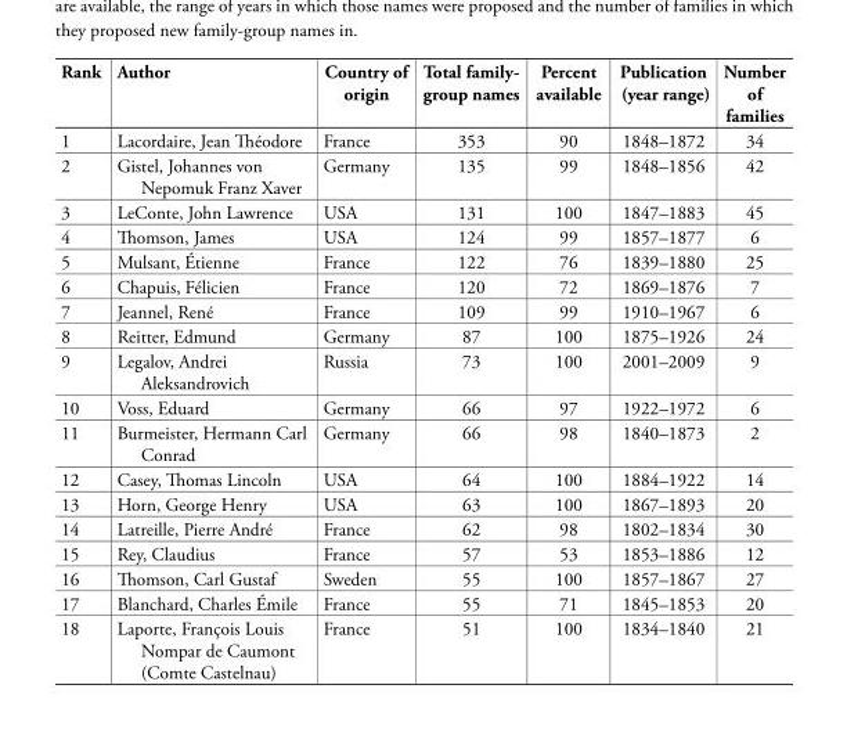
<table><thead><tr><td>Rank</td><td>Author</td><td>Country of origin</td><td>Total family- group names</td><td>Percent available</td><td>Publication (year range)</td><td>Number of families</td></tr></thead><tbody><tr><td>1</td><td>Lacordaire, Jean Théodore</td><td>France</td><td>353</td><td>90</td><td>1848–1872</td><td>34</td></tr><tr><td>2</td><td>Gistel, Johannes von Nepomuk Franz Xaver</td><td>Germany</td><td>135</td><td>99</td><td>1848–1856</td><td>42</td></tr><tr><td>3</td><td>LeConte, John Lawrence</td><td>USA</td><td>131</td><td>100</td><td>1847–1883</td><td>45</td></tr><tr><td>4</td><td>Thomson, James</td><td>USA</td><td>124</td><td>99</td><td>1857–1877</td><td>6</td></tr><tr><td>5</td><td>Mulsant, Étienne</td><td>France</td><td>122</td><td>76</td><td>1839–1880</td><td>25</td></tr><tr><td>6</td><td>Chapuis, Félicien</td><td>France</td><td>120</td><td>72</td><td>1869–1876</td><td>7</td></tr><tr><td>7</td><td>Jeannel, René</td><td>France</td><td>109</td><td>99</td><td>1910–1967</td><td>6</td></tr><tr><td>8</td><td>Reitter, Edmund</td><td>Germany</td><td>87</td><td>100</td><td>1875–1926</td><td>24</td></tr><tr><td>9</td><td>Legalov, Andrei Aleksandrovich</td><td>Russia</td><td>73</td><td>100</td><td>2001–2009</td><td>9</td></tr><tr><td>10</td><td>Voss, Eduard</td><td>Germany</td><td>66</td><td>97</td><td>1922–1972</td><td>6</td></tr><tr><td>11</td><td>Burmeister, Hermann Carl Conrad</td><td>Germany</td><td>66</td><td>98</td><td>1840–1873</td><td>2</td></tr><tr><td>12</td><td>Casey, Thomas Lincoln</td><td>USA</td><td>64</td><td>100</td><td>1884–1922</td><td>14</td></tr><tr><td>13</td><td>Horn, George Henry</td><td>USA</td><td>63</td><td>100</td><td>1867–1893</td><td>20</td></tr><tr><td>14</td><td>Latreille, Pierre André</td><td>France</td><td>62</td><td>98</td><td>1802–1834</td><td>30</td></tr><tr><td>15</td><td>Rey, Claudius</td><td>France</td><td>57</td><td>53</td><td>1853–1886</td><td>12</td></tr><tr><td>16</td><td>Thomson, Carl Gustaf</td><td>Sweden</td><td>55</td><td>100</td><td>1857–1867</td><td>27</td></tr><tr><td>17</td><td>Blanchard, Charles Émile</td><td>France</td><td>55</td><td>71</td><td>1845–1853</td><td>20</td></tr><tr><td>18</td><td>Laporte, François Louis Nompar de Caumont (Comte Castelnau)</td><td>France</td><td>51</td><td>100</td><td>1834–1840</td><td>21</td></tr></tbody></table>